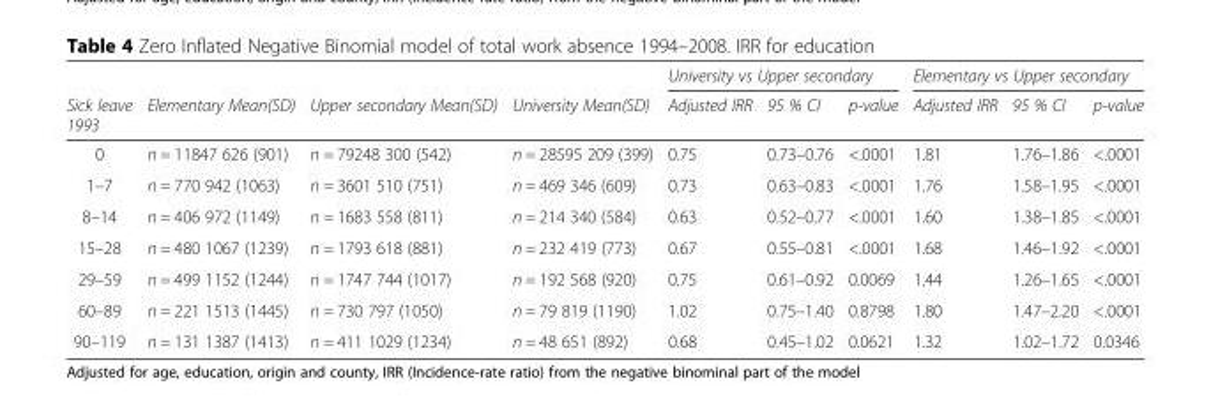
<table><thead><tr><td rowspan="2">Sick leave 1993</td><td rowspan="2">Elementary Mean(SD)</td><td rowspan="2">Upper secondary Mean(SD)</td><td rowspan="2">University Mean(SD)</td><td colspan="3">University vs Upper secondary</td><td colspan="3">Elementary vs Upper secondary</td></tr><tr><td>Adjusted IRR</td><td>95 % CI</td><td>p-value</td><td>Adjusted IRR</td><td>95 % CI</td><td>p-value</td></tr></thead><tbody><tr><td>0</td><td>n = 11847 626 (901)</td><td>n = 79248 300 (542)</td><td>n = 28595 209 (399)</td><td>0.75</td><td>0.73–0.76</td><td>&lt;.0001</td><td>1.81</td><td>1.76–1.86</td><td>&lt;.0001</td></tr><tr><td>1–7</td><td>n = 770 942 (1063)</td><td>n = 3601 510 (751)</td><td>n = 469 346 (609)</td><td>0.73</td><td>0.63–0.83</td><td>&lt;.0001</td><td>1.76</td><td>1.58–1.95</td><td>&lt;.0001</td></tr><tr><td>8–14</td><td>n = 406 972 (1149)</td><td>n = 1683 558 (811)</td><td>n = 214 340 (584)</td><td>0.63</td><td>0.52–0.77</td><td>&lt;.0001</td><td>1.60</td><td>1.38–1.85</td><td>&lt;.0001</td></tr><tr><td>15–28</td><td>n = 480 1067 (1239)</td><td>n = 1793 618 (881)</td><td>n = 232 419 (773)</td><td>0.67</td><td>0.55–0.81</td><td>&lt;.0001</td><td>1.68</td><td>1.46–1.92</td><td>&lt;.0001</td></tr><tr><td>29–59</td><td>n = 499 1152 (1244)</td><td>n = 1747 744 (1017)</td><td>n = 192 568 (920)</td><td>0.75</td><td>0.61–0.92</td><td>0.0069</td><td>1.44</td><td>1.26–1.65</td><td>&lt;.0001</td></tr><tr><td>60–89</td><td>n = 221 1513 (1445)</td><td>n = 730 797 (1050)</td><td>n = 79 819 (1190)</td><td>1.02</td><td>0.75–1.40</td><td>0.8798</td><td>1.80</td><td>1.47–2.20</td><td>&lt;.0001</td></tr><tr><td>90–119</td><td>n = 131 1387 (1413)</td><td>n = 411 1029 (1234)</td><td>n = 48 651 (892)</td><td>0.68</td><td>0.45–1.02</td><td>0.0621</td><td>1.32</td><td>1.02–1.72</td><td>0.0346</td></tr></tbody></table>